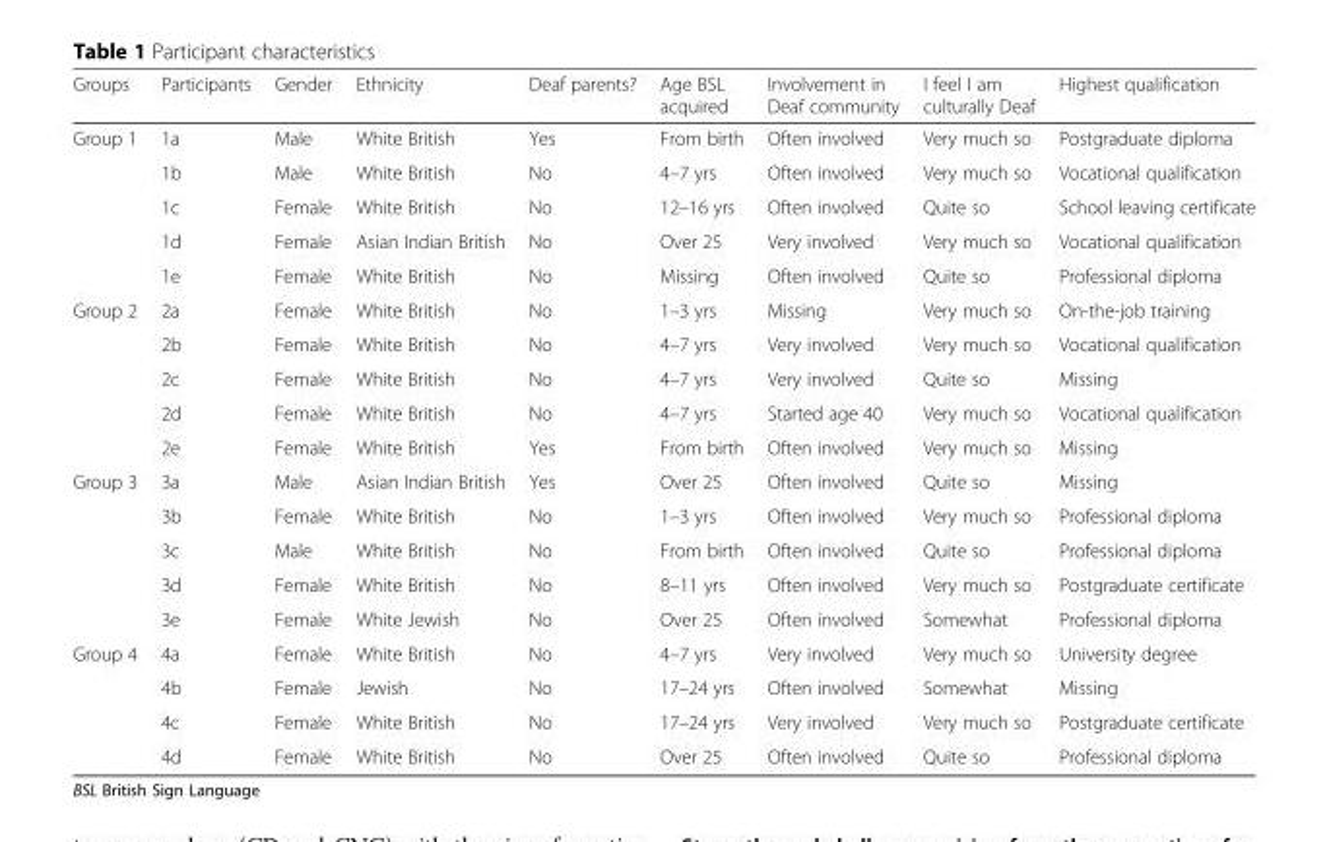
<table><thead><tr><td>Groups</td><td>Participants</td><td>Gender</td><td>Ethnicity</td><td>Deaf parents?</td><td>Age BSL acquired</td><td>Involvement in Deaf community</td><td>I feel I am culturally Deaf</td><td>Highest qualification</td></tr></thead><tbody><tr><td rowspan="5">Group 1</td><td>1a</td><td>Male</td><td>White British</td><td>Yes</td><td>From birth</td><td>Often involved</td><td>Very much so</td><td>Postgraduate diploma</td></tr><tr><td>1b</td><td>Male</td><td>White British</td><td>No</td><td>4–7 yrs</td><td>Often involved</td><td>Very much so</td><td>Vocational qualification</td></tr><tr><td>1c</td><td>Female</td><td>White British</td><td>No</td><td>12–16 yrs</td><td>Often involved</td><td>Quite so</td><td>School leaving certificate</td></tr><tr><td>1d</td><td>Female</td><td>Asian Indian British</td><td>No</td><td>Over 25</td><td>Very involved</td><td>Very much so</td><td>Vocational qualification</td></tr><tr><td>1e</td><td>Female</td><td>White British</td><td>No</td><td>Missing</td><td>Often involved</td><td>Quite so</td><td>Professional diploma</td></tr><tr><td rowspan="5">Group 2</td><td>2a</td><td>Female</td><td>White British</td><td>No</td><td>1–3 yrs</td><td>Missing</td><td>Very much so</td><td>On-the-job training</td></tr><tr><td>2b</td><td>Female</td><td>White British</td><td>No</td><td>4–7 yrs</td><td>Very involved</td><td>Very much so</td><td>Vocational qualification</td></tr><tr><td>2c</td><td>Female</td><td>White British</td><td>No</td><td>4–7 yrs</td><td>Very involved</td><td>Quite so</td><td>Missing</td></tr><tr><td>2d</td><td>Female</td><td>White British</td><td>No</td><td>4–7 yrs</td><td>Started age 40</td><td>Very much so</td><td>Vocational qualification</td></tr><tr><td>2e</td><td>Female</td><td>White British</td><td>Yes</td><td>From birth</td><td>Often involved</td><td>Very much so</td><td>Missing</td></tr><tr><td rowspan="5">Group 3</td><td>3a</td><td>Male</td><td>Asian Indian British</td><td>Yes</td><td>Over 25</td><td>Often involved</td><td>Quite so</td><td>Missing</td></tr><tr><td>3b</td><td>Female</td><td>White British</td><td>No</td><td>1–3 yrs</td><td>Often involved</td><td>Very much so</td><td>Professional diploma</td></tr><tr><td>3c</td><td>Male</td><td>White British</td><td>No</td><td>From birth</td><td>Often involved</td><td>Quite so</td><td>Professional diploma</td></tr><tr><td>3d</td><td>Female</td><td>White British</td><td>No</td><td>8–11 yrs</td><td>Often involved</td><td>Very much so</td><td>Postgraduate certificate</td></tr><tr><td>3e</td><td>Female</td><td>White Jewish</td><td>No</td><td>Over 25</td><td>Often involved</td><td>Somewhat</td><td>Professional diploma</td></tr><tr><td rowspan="4">Group 4</td><td>4a</td><td>Female</td><td>White British</td><td>No</td><td>4–7 yrs</td><td>Very involved</td><td>Very much so</td><td>University degree</td></tr><tr><td>4b</td><td>Female</td><td>Jewish</td><td>No</td><td>17–24 yrs</td><td>Often involved</td><td>Somewhat</td><td>Missing</td></tr><tr><td>4c</td><td>Female</td><td>White British</td><td>No</td><td>17–24 yrs</td><td>Very involved</td><td>Very much so</td><td>Postgraduate certificate</td></tr><tr><td>4d</td><td>Female</td><td>White British</td><td>No</td><td>Over 25</td><td>Often involved</td><td>Quite so</td><td>Professional diploma</td></tr></tbody></table>